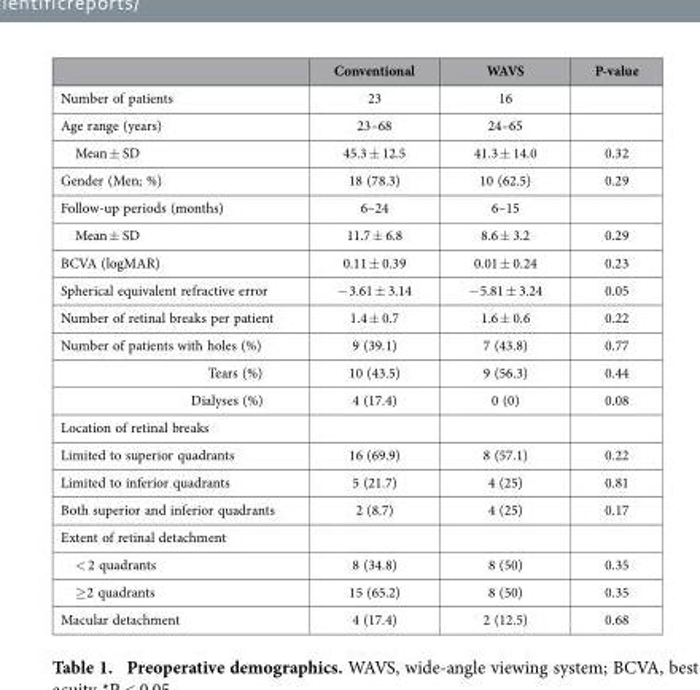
<table><thead><tr><td></td><td>Conventional</td><td>WAVS</td><td>P-value</td></tr></thead><tbody><tr><td>Number of patients</td><td>23</td><td>16</td><td></td></tr><tr><td>Age range (years)</td><td>23–68</td><td>24–65</td><td></td></tr><tr><td>Mean ± SD</td><td>45.3 ± 12.5</td><td>41.3 ± 14.0</td><td>0.32</td></tr><tr><td>Gender (Men; %)</td><td>18 (78.3)</td><td>10 (62.5)</td><td>0.29</td></tr><tr><td>Follow-up periods (months)</td><td>6–24</td><td>6–15</td><td></td></tr><tr><td>Mean ± SD</td><td>11.7 ± 6.8</td><td>8.6 ± 3.2</td><td>0.29</td></tr><tr><td>BCVA (logMAR)</td><td>0.11 ± 0.39</td><td>0.01 ± 0.24</td><td>0.23</td></tr><tr><td>Spherical equivalent refractive error</td><td>− 3.61 ± 3.14</td><td>− 5.81 ± 3.24</td><td>0.05</td></tr><tr><td>Number of retinal breaks per patient</td><td>1.4 ± 0.7</td><td>1.6 ± 0.6</td><td>0.22</td></tr><tr><td>Number of patients with holes (%)</td><td>9 (39.1)</td><td>7 (43.8)</td><td>0.77</td></tr><tr><td>Tears (%)</td><td>10 (43.5)</td><td>9 (56.3)</td><td>0.44</td></tr><tr><td>Dialyses (%)</td><td>4 (17.4)</td><td>0 (0)</td><td>0.08</td></tr><tr><td colspan="4">Location of retinal breaks</td></tr><tr><td>Limited to superior quadrants</td><td>16 (69.9)</td><td>8 (57.1)</td><td>0.22</td></tr><tr><td>Limited to inferior quadrants</td><td>5 (21.7)</td><td>4 (25)</td><td>0.81</td></tr><tr><td>Both superior and inferior quadrants</td><td>2 (8.7)</td><td>4 (25)</td><td>0.17</td></tr><tr><td colspan="4">Extent of retinal detachment</td></tr><tr><td>&lt; 2 quadrants</td><td>8 (34.8)</td><td>8 (50)</td><td>0.35</td></tr><tr><td>≥ 2 quadrants</td><td>15 (65.2)</td><td>8 (50)</td><td>0.35</td></tr><tr><td>Macular detachment</td><td>4 (17.4)</td><td>2 (12.5)</td><td>0.68</td></tr></tbody></table>